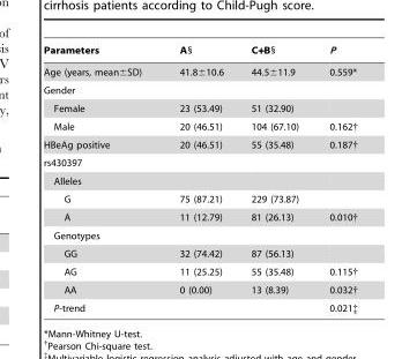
<table><thead><tr><td>Parameters</td><td>A§</td><td>C+B§</td><td>P</td></tr></thead><tbody><tr><td>Age (years, mean±SD)</td><td>41.8±10.6</td><td>44.5±11.9</td><td>0.559*</td></tr><tr><td colspan="4">Gender</td></tr><tr><td>Female</td><td>23 (53.49)</td><td>51 (32.90)</td><td></td></tr><tr><td>Male</td><td>20 (46.51)</td><td>104 (67.10)</td><td>0.162†</td></tr><tr><td>HBeAg positive</td><td>20 (46.51)</td><td>55 (35.48)</td><td>0.187†</td></tr><tr><td colspan="4">rs430397</td></tr><tr><td colspan="4">Alleles</td></tr><tr><td>G</td><td>75 (87.21)</td><td>229 (73.87)</td><td></td></tr><tr><td>A</td><td>11 (12.79)</td><td>81 (26.13)</td><td>0.010†</td></tr><tr><td colspan="4">Genotypes</td></tr><tr><td>GG</td><td>32 (74.42)</td><td>87 (56.13)</td><td></td></tr><tr><td>AG</td><td>11 (25.25)</td><td>55 (35.48)</td><td>0.115†</td></tr><tr><td>AA</td><td>0 (0.00)</td><td>13 (8.39)</td><td>0.032†</td></tr><tr><td>P-trend</td><td></td><td></td><td>0.021‡</td></tr></tbody></table>